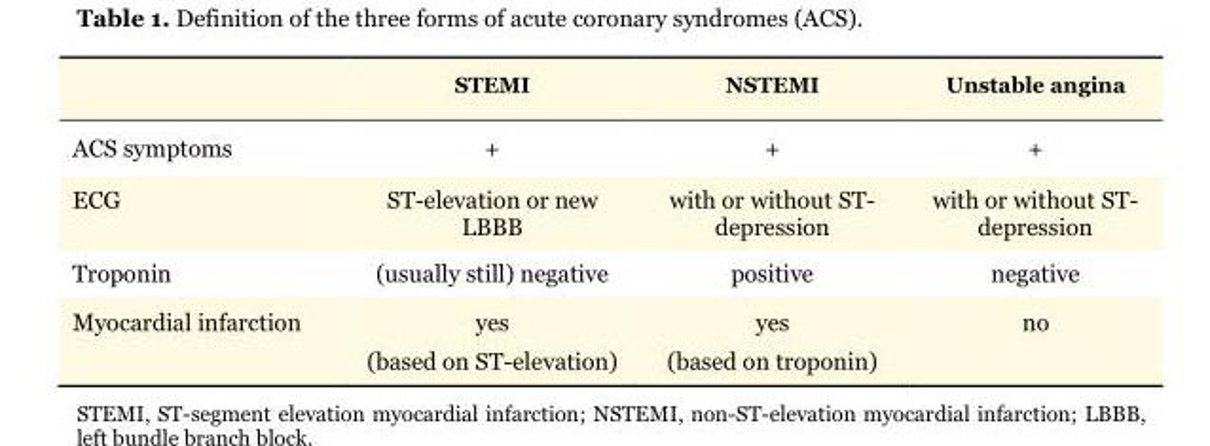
<table><thead><tr><td></td><td>STEMI</td><td>NSTEMI</td><td>Unstable angina</td></tr></thead><tbody><tr><td>ACS symptoms</td><td>+</td><td>+</td><td>+</td></tr><tr><td>ECG</td><td>ST-elevation or new LBBB</td><td>with or without ST- depression</td><td>with or without ST- depression</td></tr><tr><td>Troponin</td><td>(usually still) negative</td><td>positive</td><td>negative</td></tr><tr><td>Myocardial infarction</td><td>yes (based on ST-elevation)</td><td>yes (based on troponin)</td><td>no</td></tr></tbody></table>